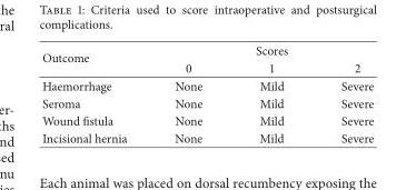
<table><thead><tr><td rowspan="2">Outcome</td><td rowspan="2">0</td><td rowspan="2">Scores 1</td><td rowspan="2">2</td></tr><tr></tr></thead><tbody><tr><td>Haemorrhage</td><td>None</td><td>Mild</td><td>Severe</td></tr><tr><td>Seroma</td><td>None</td><td>Mild</td><td>Severe</td></tr><tr><td>Wound fistula</td><td>None</td><td>Mild</td><td>Severe</td></tr><tr><td>Incisional hernia</td><td>None</td><td>Mild</td><td>Severe</td></tr></tbody></table>